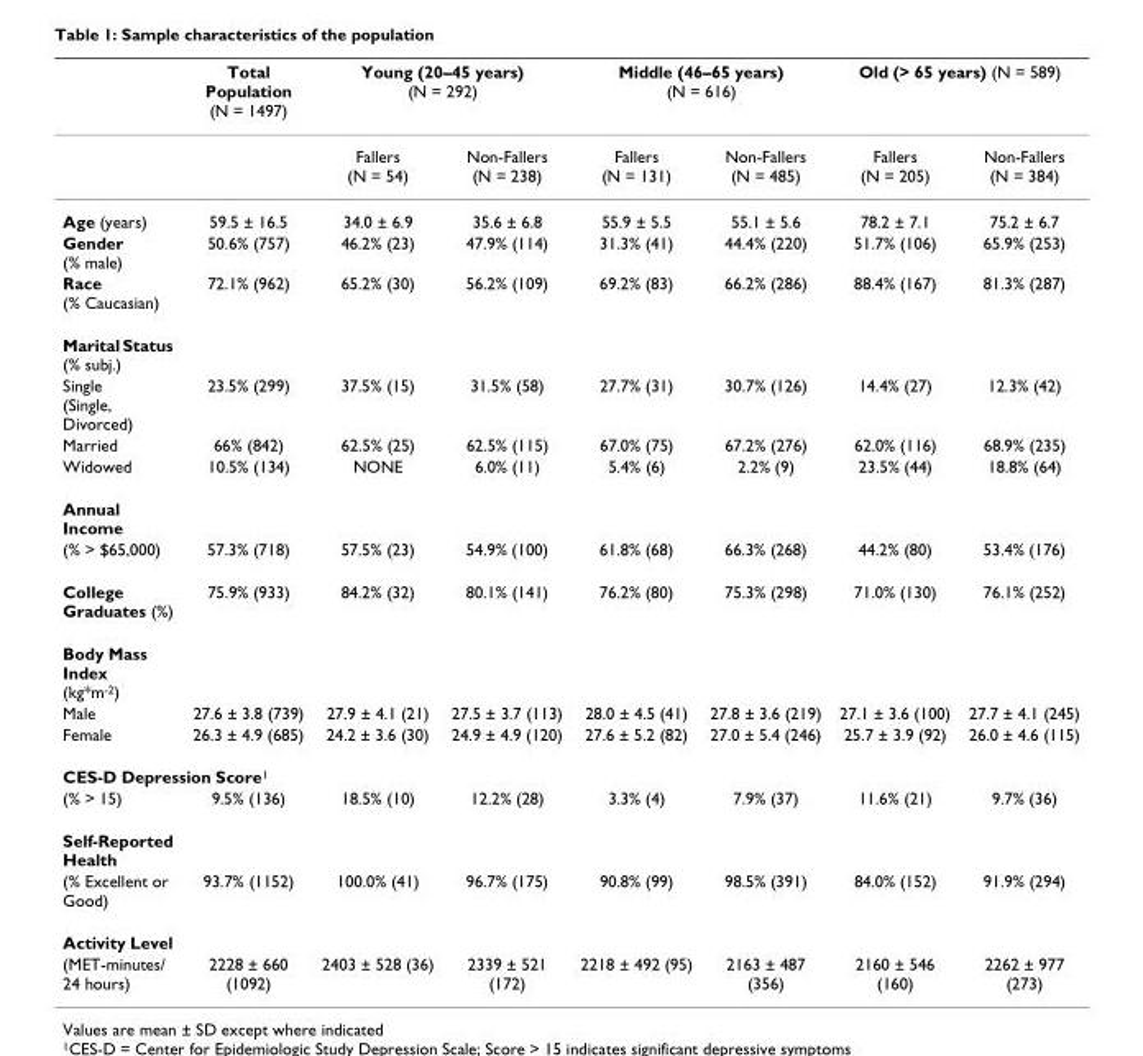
<table><thead><tr><td rowspan="2"></td><td rowspan="2">Total Population (N = 1497)</td><td colspan="2">Young (20–45 years) (N = 292)</td><td colspan="2">Middle (46–65 years) (N = 616)</td><td colspan="2">Old (&gt; 65 years) (N = 589)</td></tr><tr><td>Fallers (N = 54)</td><td>Non-Fallers (N = 238)</td><td>Fallers (N = 131)</td><td>Non-Fallers (N = 485)</td><td>Fallers (N = 205)</td><td>Non-Fallers (N = 384)</td></tr></thead><tbody><tr><td>Age (years)</td><td>59.5 ± 16.5</td><td>34.0 ± 6.9</td><td>35.6 ± 6.8</td><td>55.9 ± 5.5</td><td>55.1 ± 5.6</td><td>78.2 ± 7.1</td><td>75.2 ± 6.7</td></tr><tr><td>Gender (% male)</td><td>50.6% (757)</td><td>46.2% (23)</td><td>47.9% (114)</td><td>31.3% (41)</td><td>44.4% (220)</td><td>51.7% (106)</td><td>65.9% (253)</td></tr><tr><td>Race (% Caucasian)</td><td>72.1% (962)</td><td>65.2% (30)</td><td>56.2% (109)</td><td>69.2% (83)</td><td>66.2% (286)</td><td>88.4% (167)</td><td>81.3% (287)</td></tr><tr><td colspan="8">Marital Status (% subj.)</td></tr><tr><td>Single (Single, Divorced)</td><td>23.5% (299)</td><td>37.5% (15)</td><td>31.5% (58)</td><td>27.7% (31)</td><td>30.7% (126)</td><td>14.4% (27)</td><td>12.3% (42)</td></tr><tr><td>Married</td><td>66% (842)</td><td>62.5% (25)</td><td>62.5% (115)</td><td>67.0% (75)</td><td>67.2% (276)</td><td>62.0% (116)</td><td>68.9% (235)</td></tr><tr><td>Widowed</td><td>10.5% (134)</td><td>NONE</td><td>6.0% (11)</td><td>5.4% (6)</td><td>2.2% (9)</td><td>23.5% (44)</td><td>18.8% (64)</td></tr><tr><td colspan="8">Annual Income</td></tr><tr><td>(% &gt; $65,000)</td><td>57.3% (718)</td><td>57.5% (23)</td><td>54.9% (100)</td><td>61.8% (68)</td><td>66.3% (268)</td><td>44.2% (80)</td><td>53.4% (176)</td></tr><tr><td>College Graduates (%)</td><td>75.9% (933)</td><td>84.2% (32)</td><td>80.1% (141)</td><td>76.2% (80)</td><td>75.3% (298)</td><td>71.0% (130)</td><td>76.1% (252)</td></tr><tr><td colspan="8">Body Mass Index (kg*m<sup>-2</sup>)</td></tr><tr><td>Male</td><td>27.6 ± 3.8 (739)</td><td>27.9 ± 4.1 (21)</td><td>27.5 ± 3.7 (113)</td><td>28.0 ± 4.5 (41)</td><td>27.8 ± 3.6 (219)</td><td>27.1 ± 3.6 (100)</td><td>27.7 ± 4.1 (245)</td></tr><tr><td>Female</td><td>26.3 ± 4.9 (685)</td><td>24.2 ± 3.6 (30)</td><td>24.9 ± 4.9 (120)</td><td>27.6 ± 5.2 (82)</td><td>27.0 ± 5.4 (246)</td><td>25.7 ± 3.9 (92)</td><td>26.0 ± 4.6 (115)</td></tr><tr><td colspan="8">CES-D Depression Score<sup>1</sup></td></tr><tr><td>(% &gt; 15)</td><td>9.5% (136)</td><td>18.5% (10)</td><td>12.2% (28)</td><td>3.3% (4)</td><td>7.9% (37)</td><td>11.6% (21)</td><td>9.7% (36)</td></tr><tr><td colspan="8">Self-Reported Health</td></tr><tr><td>(% Excellent or Good)</td><td>93.7% (1152)</td><td>100.0% (41)</td><td>96.7% (175)</td><td>90.8% (99)</td><td>98.5% (391)</td><td>84.0% (152)</td><td>91.9% (294)</td></tr><tr><td colspan="8">Activity Level</td></tr><tr><td>(MET-minutes/ 24 hours)</td><td>2228 ± 660 (1092)</td><td>2403 ± 528 (36)</td><td>2339 ± 521 (172)</td><td>2218 ± 492 (95)</td><td>2163 ± 487 (356)</td><td>2160 ± 546 (160)</td><td>2262 ± 977 (273)</td></tr></tbody></table>